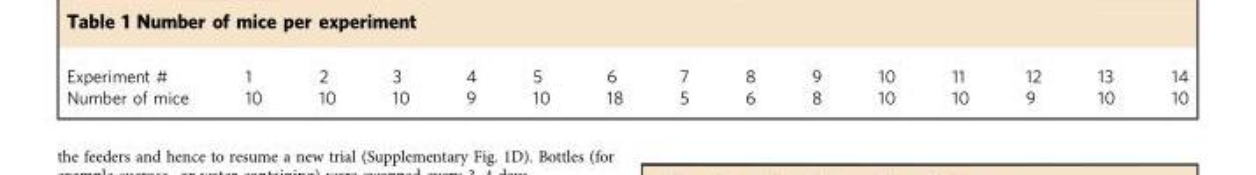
<table><tbody><tr><td>Experiment #</td><td>1</td><td>2</td><td>3</td><td>4</td><td>5</td><td>6</td><td>7</td><td>8</td><td>9</td><td>10</td><td>11</td><td>12</td><td>13</td><td>14</td></tr><tr><td>Number of mice</td><td>10</td><td>10</td><td>10</td><td>9</td><td>10</td><td>18</td><td>5</td><td>6</td><td>8</td><td>10</td><td>10</td><td>9</td><td>10</td><td>10</td></tr></tbody></table>